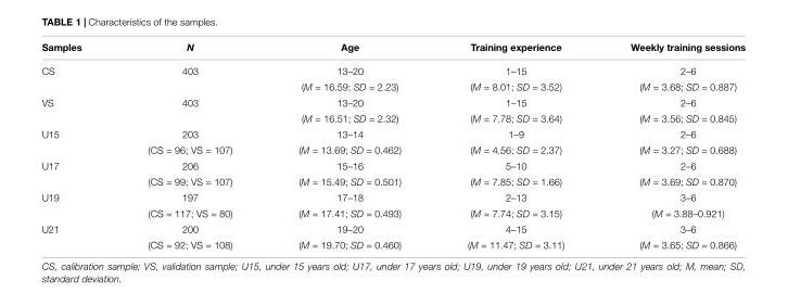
<table><thead><tr><td>Samples</td><td>N</td><td>Age</td><td>Training experience</td><td>Weekly training sessions</td></tr></thead><tbody><tr><td rowspan="2">CS</td><td>403</td><td>13–20</td><td>1–15</td><td>2–6</td></tr><tr><td></td><td>(M = 16.59; SD = 2.23)</td><td>(M = 8.01; SD = 3.52)</td><td>(M = 3.68; SD = 0.887)</td></tr><tr><td rowspan="2">VS</td><td>403</td><td>13–20</td><td>1–15</td><td>2–6</td></tr><tr><td></td><td>(M = 16.51; SD = 2.32)</td><td>(M = 7.78; SD = 3.64)</td><td>(M = 3.56; SD = 0.845)</td></tr><tr><td rowspan="2">U15</td><td>203</td><td>13–14</td><td>1–9</td><td>2–6</td></tr><tr><td>(CS = 96; VS = 107)</td><td>(M = 13.69; SD = 0.462)</td><td>(M = 4.56; SD = 2.37)</td><td>(M = 3.27; SD = 0.688)</td></tr><tr><td rowspan="2">U17</td><td>206</td><td>15–16</td><td>5–10</td><td>2–6</td></tr><tr><td>(CS = 99; VS = 107)</td><td>(M = 15.49; SD = 0.501)</td><td>(M = 7.85; SD = 1.66)</td><td>(M = 3.69; SD = 0.870)</td></tr><tr><td rowspan="2">U19</td><td>197</td><td>17–18</td><td>2–13</td><td>3–6</td></tr><tr><td>(CS = 117; VS = 80)</td><td>(M = 17.41; SD = 0.493)</td><td>(M = 7.74; SD = 3.15)</td><td>(M = 3.88–0.921)</td></tr><tr><td rowspan="2">U21</td><td>200</td><td>19–20</td><td>4–15</td><td>3–6</td></tr><tr><td>(CS = 92; VS = 108)</td><td>(M = 19.70; SD = 0.460)</td><td>(M = 11.47; SD = 3.11)</td><td>(M = 3.65; SD = 0.866)</td></tr></tbody></table>